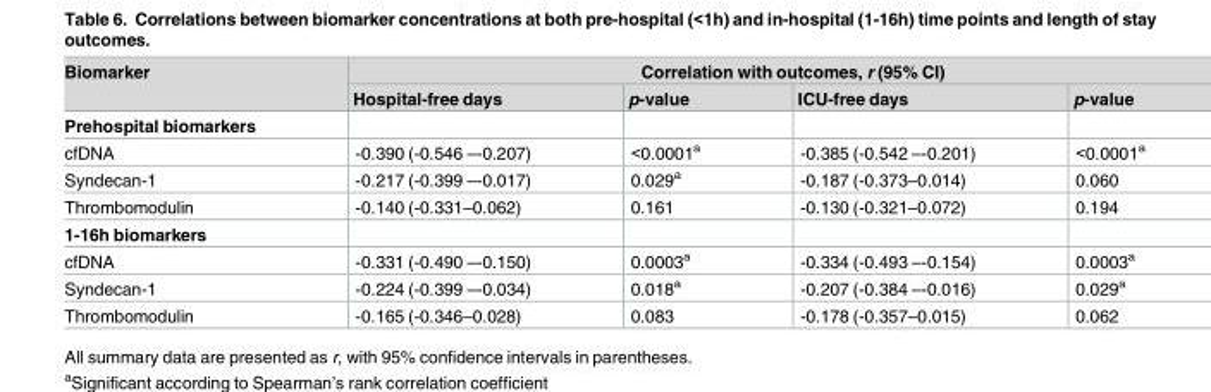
<table><thead><tr><td rowspan="2">Biomarker</td><td colspan="4">Correlation with outcomes, r (95% CI)</td></tr><tr><td>Hospital-free days</td><td>p-value</td><td>ICU-free days</td><td>p-value</td></tr></thead><tbody><tr><td colspan="5">Prehospital biomarkers</td></tr><tr><td>cfDNA</td><td>-0.390 (-0.546 –-0.207)</td><td>&lt;0.0001<sup>a</sup></td><td>-0.385 (-0.542 –-0.201)</td><td>&lt;0.0001<sup>a</sup></td></tr><tr><td>Syndecan-1</td><td>-0.217 (-0.399 –-0.017)</td><td>0.029<sup>a</sup></td><td>-0.187 (-0.373–0.014)</td><td>0.060</td></tr><tr><td>Thrombomodulin</td><td>-0.140 (-0.331–0.062)</td><td>0.161</td><td>-0.130 (-0.321–0.072)</td><td>0.194</td></tr><tr><td colspan="5">1-16h biomarkers</td></tr><tr><td>cfDNA</td><td>-0.331 (-0.490 –-0.150)</td><td>0.0003<sup>a</sup></td><td>-0.334 (-0.493 –-0.154)</td><td>0.0003<sup>a</sup></td></tr><tr><td>Syndecan-1</td><td>-0.224 (-0.399 –-0.034)</td><td>0.018<sup>a</sup></td><td>-0.207 (-0.384 –-0.016)</td><td>0.029<sup>a</sup></td></tr><tr><td>Thrombomodulin</td><td>-0.165 (-0.346–0.028)</td><td>0.083</td><td>-0.178 (-0.357–0.015)</td><td>0.062</td></tr></tbody></table>